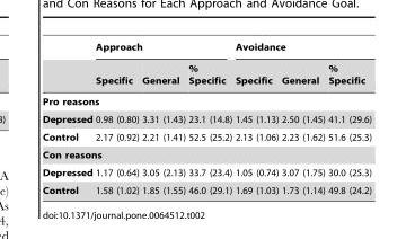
<table><thead><tr><td rowspan="2"></td><td colspan="3">Approach</td><td colspan="3">Avoidance</td></tr><tr><td>Specific</td><td>General</td><td>% Specific</td><td>Specific</td><td>General</td><td>% Specific</td></tr></thead><tbody><tr><td colspan="7">Pro reasons</td></tr><tr><td>Depressed</td><td>0.98 (0.80)</td><td>3.31 (1.43)</td><td>23.1 (14.8)</td><td>1.45 (1.13)</td><td>2.50 (1.45)</td><td>41.1 (29.6)</td></tr><tr><td>Control</td><td>2.17 (0.92)</td><td>2.21 (1.41)</td><td>52.5 (25.2)</td><td>2.13 (1.06)</td><td>2.23 (1.62)</td><td>51.6 (25.3)</td></tr><tr><td colspan="7">Con reasons</td></tr><tr><td>Depressed</td><td>1.17 (0.64)</td><td>3.05 (2.13)</td><td>33.7 (23.4)</td><td>1.05 (0.74)</td><td>3.07 (1.75)</td><td>30.0 (25.3)</td></tr><tr><td>Control</td><td>1.58 (1.02)</td><td>1.85 (1.55)</td><td>46.0 (29.1)</td><td>1.69 (1.03)</td><td>1.73 (1.14)</td><td>49.8 (24.2)</td></tr></tbody></table>